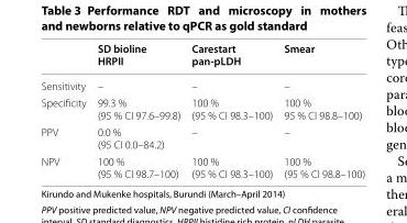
<table><thead><tr><td></td><td>SD bioline HRPII</td><td>Carestart pan-pLDH</td><td>Smear</td></tr></thead><tbody><tr><td>Sensitivity</td><td>–</td><td>–</td><td>–</td></tr><tr><td>Specificity</td><td>99.3 % (95 % CI 97.6–99.8)</td><td>100 % (95 % CI 98.3–100)</td><td>100 % 95 % CI 98.8–100)</td></tr><tr><td>PPV</td><td>0.0 % (95 CI 0.0–84.2)</td><td>–</td><td>–</td></tr><tr><td>NPV</td><td>100 % (95 % CI 98.7–100)</td><td>100 % (95 % CI 98.3–100)</td><td>100 % (95 % CI 98.8–100)</td></tr></tbody></table>